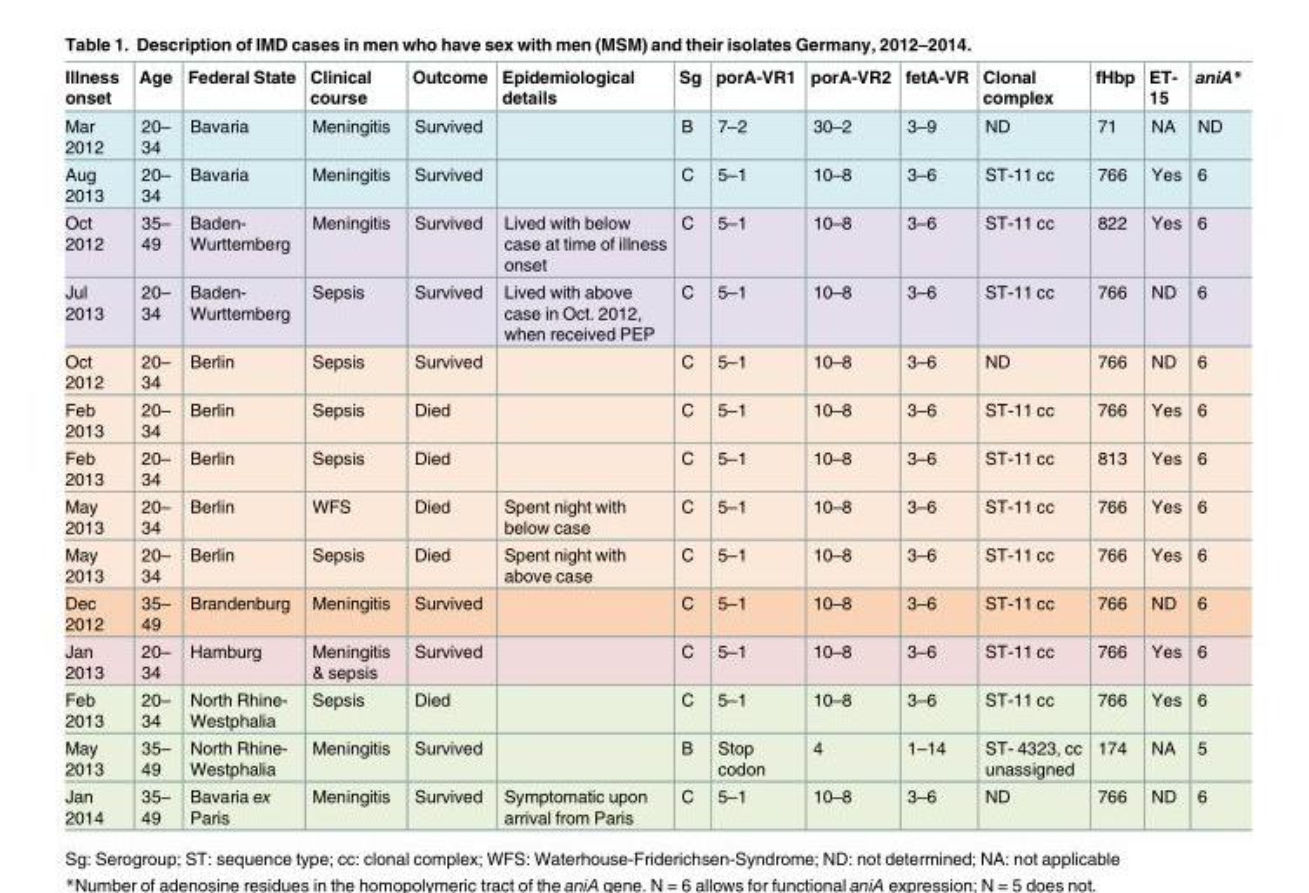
<table><thead><tr><td>Illness onset</td><td>Age</td><td>Federal State</td><td>Clinical course</td><td>Outcome</td><td>Epidemiological details</td><td>Sg</td><td>porA-VR1</td><td>porA-VR2</td><td>fetA-VR</td><td>Clonal complex</td><td>fHbp</td><td>ET- 15</td><td>aniA*</td></tr></thead><tbody><tr><td>Mar 2012</td><td>20– 34</td><td>Bavaria</td><td>Meningitis</td><td>Survived</td><td></td><td>B</td><td>7–2</td><td>30–2</td><td>3–9</td><td>ND</td><td>71</td><td>NA</td><td>ND</td></tr><tr><td>Aug 2013</td><td>20– 34</td><td>Bavaria</td><td>Meningitis</td><td>Survived</td><td></td><td>C</td><td>5–1</td><td>10–8</td><td>3–6</td><td>ST-11 cc</td><td>766</td><td>Yes</td><td>6</td></tr><tr><td>Oct 2012</td><td>35– 49</td><td>Baden- Wurttemberg</td><td>Meningitis</td><td>Survived</td><td>Lived with below case at time of illness onset</td><td>C</td><td>5–1</td><td>10–8</td><td>3–6</td><td>ST-11 cc</td><td>822</td><td>Yes</td><td>6</td></tr><tr><td>Jul 2013</td><td>20– 34</td><td>Baden- Wurttemberg</td><td>Sepsis</td><td>Survived</td><td>Lived with above case in Oct. 2012, when received PEP</td><td>C</td><td>5–1</td><td>10–8</td><td>3–6</td><td>ST-11 cc</td><td>766</td><td>ND</td><td>6</td></tr><tr><td>Oct 2012</td><td>20– 34</td><td>Berlin</td><td>Sepsis</td><td>Survived</td><td></td><td>C</td><td>5–1</td><td>10–8</td><td>3–6</td><td>ND</td><td>766</td><td>ND</td><td>6</td></tr><tr><td>Feb 2013</td><td>20– 34</td><td>Berlin</td><td>Sepsis</td><td>Died</td><td></td><td>C</td><td>5–1</td><td>10–8</td><td>3–6</td><td>ST-11 cc</td><td>766</td><td>Yes</td><td>6</td></tr><tr><td>Feb 2013</td><td>20– 34</td><td>Berlin</td><td>Sepsis</td><td>Died</td><td></td><td>C</td><td>5–1</td><td>10–8</td><td>3–6</td><td>ST-11 cc</td><td>813</td><td>Yes</td><td>6</td></tr><tr><td>May 2013</td><td>20– 34</td><td>Berlin</td><td>WFS</td><td>Died</td><td>Spent night with below case</td><td>C</td><td>5–1</td><td>10–8</td><td>3–6</td><td>ST-11 cc</td><td>766</td><td>Yes</td><td>6</td></tr><tr><td>May 2013</td><td>20– 34</td><td>Berlin</td><td>Sepsis</td><td>Died</td><td>Spent night with above case</td><td>C</td><td>5–1</td><td>10–8</td><td>3–6</td><td>ST-11 cc</td><td>766</td><td>Yes</td><td>6</td></tr><tr><td>Dec 2012</td><td>35– 49</td><td>Brandenburg</td><td>Meningitis</td><td>Survived</td><td></td><td>C</td><td>5–1</td><td>10–8</td><td>3–6</td><td>ST-11 cc</td><td>766</td><td>ND</td><td>6</td></tr><tr><td>Jan 2013</td><td>20– 34</td><td>Hamburg</td><td>Meningitis &amp; sepsis</td><td>Survived</td><td></td><td>C</td><td>5–1</td><td>10–8</td><td>3–6</td><td>ST-11 cc</td><td>766</td><td>Yes</td><td>6</td></tr><tr><td>Feb 2013</td><td>20– 34</td><td>North Rhine- Westphalia</td><td>Sepsis</td><td>Died</td><td></td><td>C</td><td>5–1</td><td>10–8</td><td>3–6</td><td>ST-11 cc</td><td>766</td><td>Yes</td><td>6</td></tr><tr><td>May 2013</td><td>35– 49</td><td>North Rhine- Westphalia</td><td>Meningitis</td><td>Survived</td><td></td><td>B</td><td>Stop codon</td><td>4</td><td>1–14</td><td>ST- 4323, cc unassigned</td><td>174</td><td>NA</td><td>5</td></tr><tr><td>Jan 2014</td><td>35– 49</td><td>Bavaria ex Paris</td><td>Meningitis</td><td>Survived</td><td>Symptomatic upon arrival from Paris</td><td>C</td><td>5–1</td><td>10–8</td><td>3–6</td><td>ND</td><td>766</td><td>ND</td><td>6</td></tr></tbody></table>